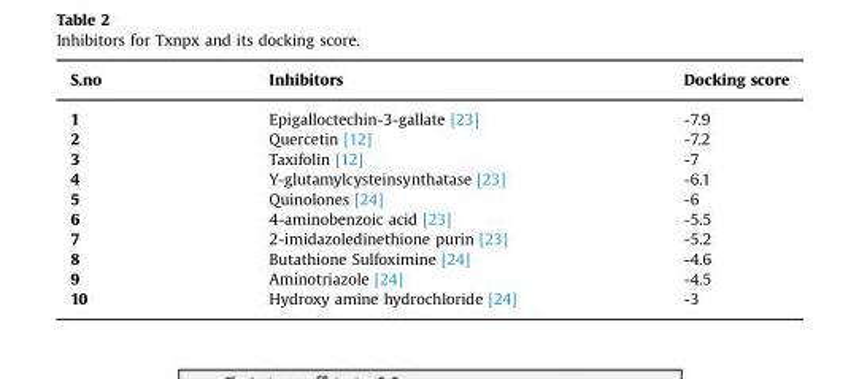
<table><thead><tr><td>S.no</td><td>Inhibitors</td><td>Docking score</td></tr></thead><tbody><tr><td>1</td><td>Epigalloctechin-3-gallate [23]</td><td>-7.9</td></tr><tr><td>2</td><td>Quercetin [12]</td><td>-7.2</td></tr><tr><td>3</td><td>Taxifolin [12]</td><td>-7</td></tr><tr><td>4</td><td>Y-glutamylcysteinsynthatase [23]</td><td>-6.1</td></tr><tr><td>5</td><td>Quinolones [24]</td><td>-6</td></tr><tr><td>6</td><td>4-aminobenzoic acid [23]</td><td>-5.5</td></tr><tr><td>7</td><td>2-imidazoledinethione purin [23]</td><td>-5.2</td></tr><tr><td>8</td><td>Butathione Sulfoximine [24]</td><td>-4.6</td></tr><tr><td>9</td><td>Aminotriazole [24]</td><td>-4.5</td></tr><tr><td>10</td><td>Hydroxy amine hydrochloride [24]</td><td>-3</td></tr></tbody></table>